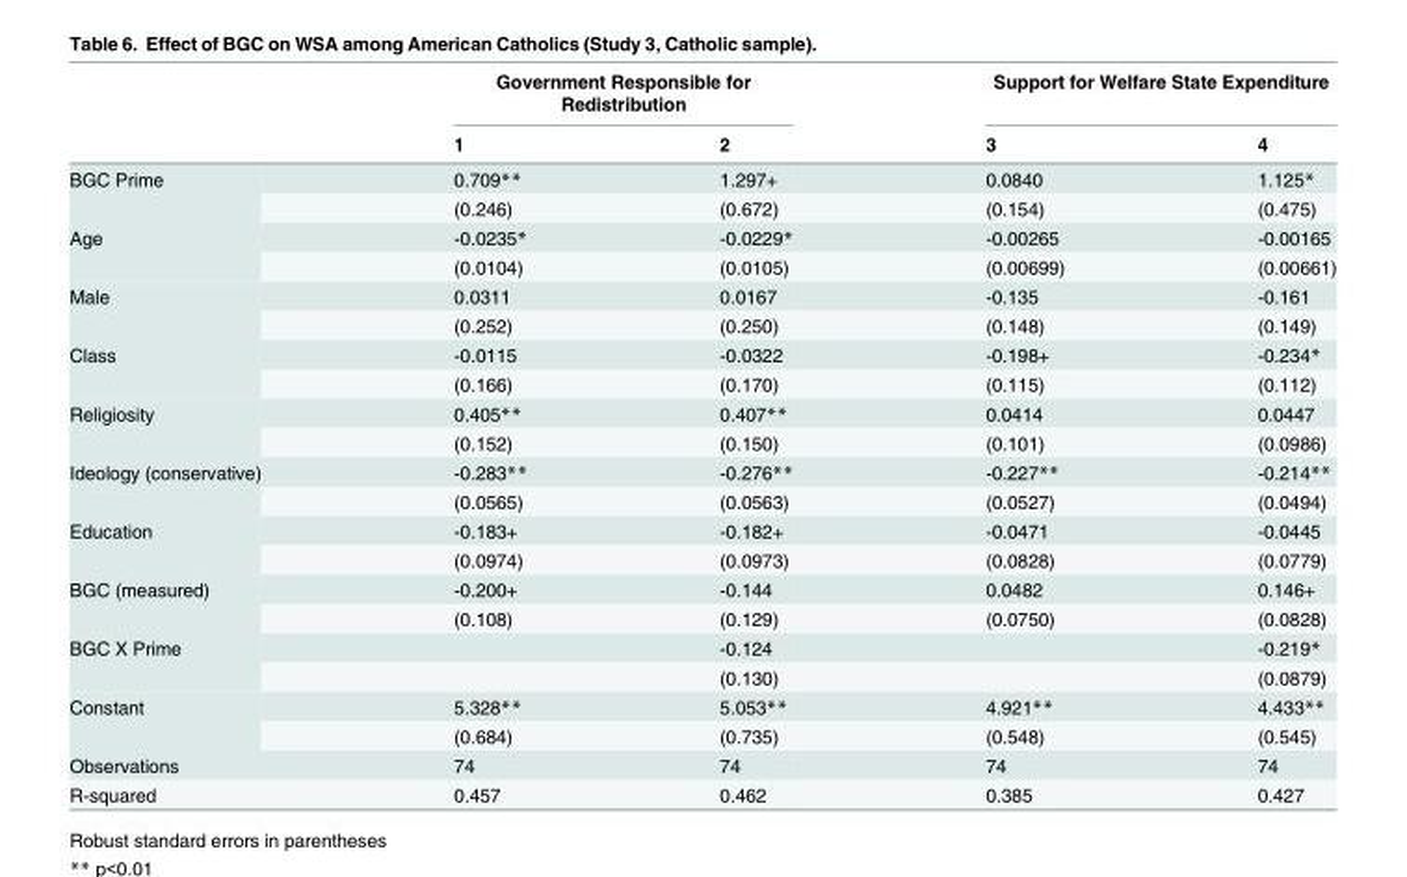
<table><thead><tr><td rowspan="2"></td><td colspan="2">Government Responsible for Redistribution</td><td colspan="2">Support for Welfare State Expenditure</td></tr><tr><td>1</td><td>2</td><td>3</td><td>4</td></tr></thead><tbody><tr><td rowspan="2">BGC Prime</td><td>0.709**</td><td>1.297+</td><td>0.0840</td><td>1.125*</td></tr><tr><td>(0.246)</td><td>(0.672)</td><td>(0.154)</td><td>(0.475)</td></tr><tr><td rowspan="2">Age</td><td>-0.0235*</td><td>-0.0229*</td><td>-0.00265</td><td>-0.00165</td></tr><tr><td>(0.0104)</td><td>(0.0105)</td><td>(0.00699)</td><td>(0.00661)</td></tr><tr><td rowspan="2">Male</td><td>0.0311</td><td>0.0167</td><td>-0.135</td><td>-0.161</td></tr><tr><td>(0.252)</td><td>(0.250)</td><td>(0.148)</td><td>(0.149)</td></tr><tr><td rowspan="2">Class</td><td>-0.0115</td><td>-0.0322</td><td>-0.198+</td><td>-0.234*</td></tr><tr><td>(0.166)</td><td>(0.170)</td><td>(0.115)</td><td>(0.112)</td></tr><tr><td rowspan="2">Religiosity</td><td>0.405**</td><td>0.407**</td><td>0.0414</td><td>0.0447</td></tr><tr><td>(0.152)</td><td>(0.150)</td><td>(0.101)</td><td>(0.0986)</td></tr><tr><td rowspan="2">Ideology (conservative)</td><td>-0.283**</td><td>-0.276**</td><td>-0.227**</td><td>-0.214**</td></tr><tr><td>(0.0565)</td><td>(0.0563)</td><td>(0.0527)</td><td>(0.0494)</td></tr><tr><td rowspan="2">Education</td><td>-0.183+</td><td>-0.182+</td><td>-0.0471</td><td>-0.0445</td></tr><tr><td>(0.0974)</td><td>(0.0973)</td><td>(0.0828)</td><td>(0.0779)</td></tr><tr><td rowspan="2">BGC (measured)</td><td>-0.200+</td><td>-0.144</td><td>0.0482</td><td>0.146+</td></tr><tr><td>(0.108)</td><td>(0.129)</td><td>(0.0750)</td><td>(0.0828)</td></tr><tr><td rowspan="2">BGC X Prime</td><td></td><td>-0.124</td><td></td><td>-0.219*</td></tr><tr><td></td><td>(0.130)</td><td></td><td>(0.0879)</td></tr><tr><td rowspan="2">Constant</td><td>5.328**</td><td>5.053**</td><td>4.921**</td><td>4.433**</td></tr><tr><td>(0.684)</td><td>(0.735)</td><td>(0.548)</td><td>(0.545)</td></tr><tr><td>Observations</td><td>74</td><td>74</td><td>74</td><td>74</td></tr><tr><td>R-squared</td><td>0.457</td><td>0.462</td><td>0.385</td><td>0.427</td></tr></tbody></table>